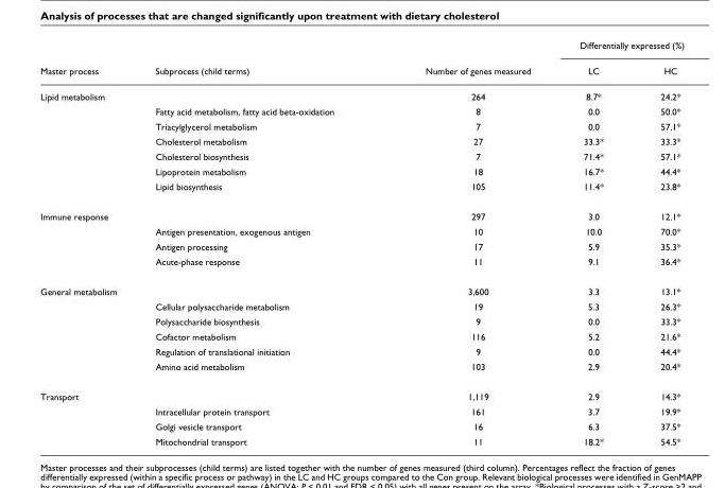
<table><thead><tr><td rowspan="2">Master process</td><td rowspan="2">Subprocess (child terms)</td><td rowspan="2">Number of genes measured</td><td colspan="2">Differentially expressed (%)</td></tr><tr><td>LC</td><td>HC</td></tr></thead><tbody><tr><td rowspan="7">Lipid metabolism</td><td></td><td>264</td><td>8.7*</td><td>24.2*</td></tr><tr><td>Fatty acid metabolism, fatty acid beta-oxidation</td><td>8</td><td>0.0</td><td>50.0*</td></tr><tr><td>Triacylglycerol metabolism</td><td>7</td><td>0.0</td><td>57.1*</td></tr><tr><td>Cholesterol metabolism</td><td>27</td><td>33.3*</td><td>33.3*</td></tr><tr><td>Cholesterol biosynthesis</td><td>7</td><td>71.4*</td><td>57.1*</td></tr><tr><td>Lipoprotein metabolism</td><td>18</td><td>16.7*</td><td>44.4*</td></tr><tr><td>Lipid biosynthesis</td><td>105</td><td>11.4*</td><td>23.8*</td></tr><tr><td rowspan="4">Immune response</td><td></td><td>297</td><td>3.0</td><td>12.1*</td></tr><tr><td>Antigen presentation, exogenous antigen</td><td>10</td><td>10.0</td><td>70.0*</td></tr><tr><td>Antigen processing</td><td>17</td><td>5.9</td><td>35.3*</td></tr><tr><td>Acute-phase response</td><td>11</td><td>9.1</td><td>36.4*</td></tr><tr><td rowspan="6">General metabolism</td><td></td><td>3,600</td><td>3.3</td><td>13.1*</td></tr><tr><td>Cellular polysaccharide metabolism</td><td>19</td><td>5.3</td><td>26.3*</td></tr><tr><td>Polysaccharide biosynthesis</td><td>9</td><td>0.0</td><td>33.3*</td></tr><tr><td>Cofactor metabolism</td><td>116</td><td>5.2</td><td>21.6*</td></tr><tr><td>Regulation of translational initiation</td><td>9</td><td>0.0</td><td>44.4*</td></tr><tr><td>Amino acid metabolism</td><td>103</td><td>2.9</td><td>20.4*</td></tr><tr><td rowspan="4">Transport</td><td></td><td>1,119</td><td>2.9</td><td>14.3*</td></tr><tr><td>Intracellular protein transport</td><td>161</td><td>3.7</td><td>19.9*</td></tr><tr><td>Golgi vesicle transport</td><td>16</td><td>6.3</td><td>37.5*</td></tr><tr><td>Mitochondrial transport</td><td>11</td><td>18.2*</td><td>54.5*</td></tr></tbody></table>